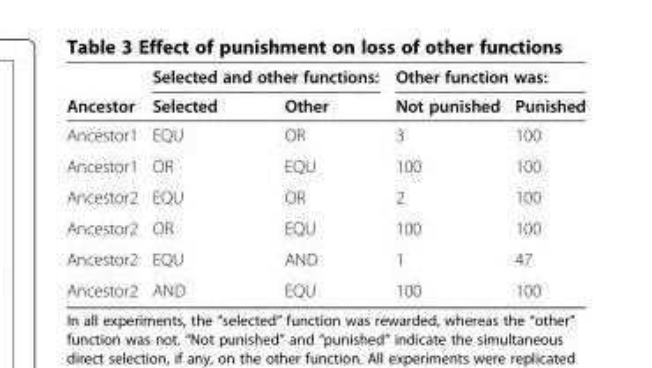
<table><thead><tr><td rowspan="2">Ancestor</td><td colspan="2">Selected and other functions:</td><td colspan="2">Other function was:</td></tr><tr><td>Selected</td><td>Other</td><td>Not punished</td><td>Punished</td></tr></thead><tbody><tr><td>Ancestor1</td><td>EQU</td><td>OR</td><td>3</td><td>100</td></tr><tr><td>Ancestor1</td><td>OR</td><td>EQU</td><td>100</td><td>100</td></tr><tr><td>Ancestor2</td><td>EQU</td><td>OR</td><td>2</td><td>100</td></tr><tr><td>Ancestor2</td><td>OR</td><td>EQU</td><td>100</td><td>100</td></tr><tr><td>Ancestor2</td><td>EQU</td><td>AND</td><td>1</td><td>47</td></tr><tr><td>Ancestor2</td><td>AND</td><td>EQU</td><td>100</td><td>100</td></tr></tbody></table>